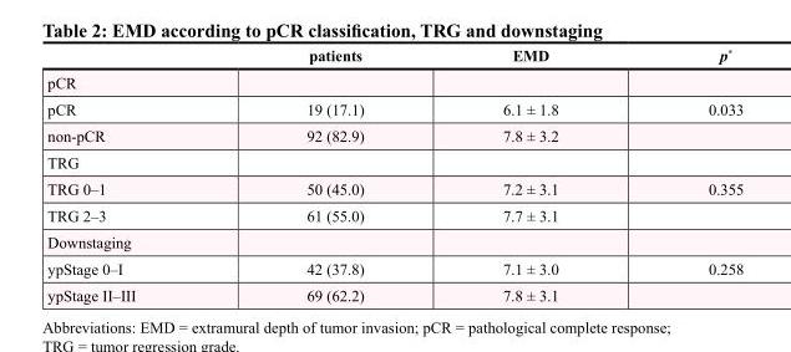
<table><thead><tr><td></td><td>patients</td><td>EMD</td><td>p*</td></tr></thead><tbody><tr><td colspan="4">pCR</td></tr><tr><td>pCR</td><td>19 (17.1)</td><td>6.1 ± 1.8</td><td>0.033</td></tr><tr><td>non-pCR</td><td>92 (82.9)</td><td>7.8 ± 3.2</td><td></td></tr><tr><td colspan="4">TRG</td></tr><tr><td>TRG 0–1</td><td>50 (45.0)</td><td>7.2 ± 3.1</td><td>0.355</td></tr><tr><td>TRG 2–3</td><td>61 (55.0)</td><td>7.7 ± 3.1</td><td></td></tr><tr><td colspan="4">Downstaging</td></tr><tr><td>ypStage 0–I</td><td>42 (37.8)</td><td>7.1 ± 3.0</td><td>0.258</td></tr><tr><td>ypStage II–III</td><td>69 (62.2)</td><td>7.8 ± 3.1</td><td></td></tr></tbody></table>